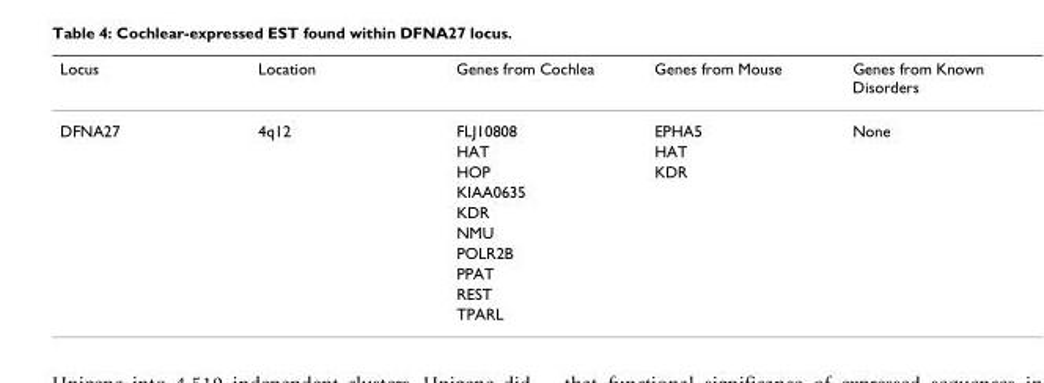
<table><thead><tr><td>Locus</td><td>Location</td><td>Genes from Cochlea</td><td>Genes from Mouse</td><td>Genes from Known Disorders</td></tr></thead><tbody><tr><td rowspan="10">DFNA27</td><td>4q12</td><td>FLJ10808</td><td>EPHA5</td><td>None</td></tr><tr><td></td><td>HAT</td><td>HAT</td><td></td></tr><tr><td></td><td>HOP</td><td>KDR</td><td></td></tr><tr><td></td><td>KIAA0635</td><td></td><td></td></tr><tr><td></td><td>KDR</td><td></td><td></td></tr><tr><td></td><td>NMU</td><td></td><td></td></tr><tr><td></td><td>POLR2B</td><td></td><td></td></tr><tr><td></td><td>PPAT</td><td></td><td></td></tr><tr><td></td><td>REST</td><td></td><td></td></tr><tr><td></td><td>TPARL</td><td></td><td></td></tr></tbody></table>